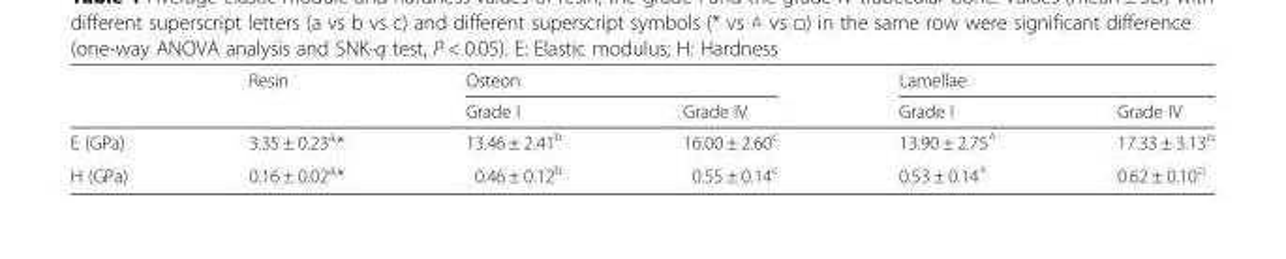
<table><thead><tr><td rowspan="2"></td><td rowspan="2">Resin</td><td colspan="2">Osteon</td><td colspan="2">Lamellae</td></tr><tr><td>Grade I</td><td>Grade IV</td><td>Grade I</td><td>Grade IV</td></tr></thead><tbody><tr><td>E (GPa)</td><td>3.35 ± 0.23<sup>a,</sup>*</td><td>13.46 ± 2.41<sup>b</sup></td><td>16.00 ± 2.60<sup>c</sup></td><td>13.90 ± 2.75<sup>△</sup></td><td>17.33 ± 3.13<sup>□</sup></td></tr><tr><td>H (GPa)</td><td>0.16 ± 0.02<sup>a,</sup>*</td><td>0.46 ± 0.12<sup>b</sup></td><td>0.55 ± 0.14<sup>c</sup></td><td>0.53 ± 0.14<sup>△</sup></td><td>0.62 ± 0.10<sup>□</sup></td></tr></tbody></table>